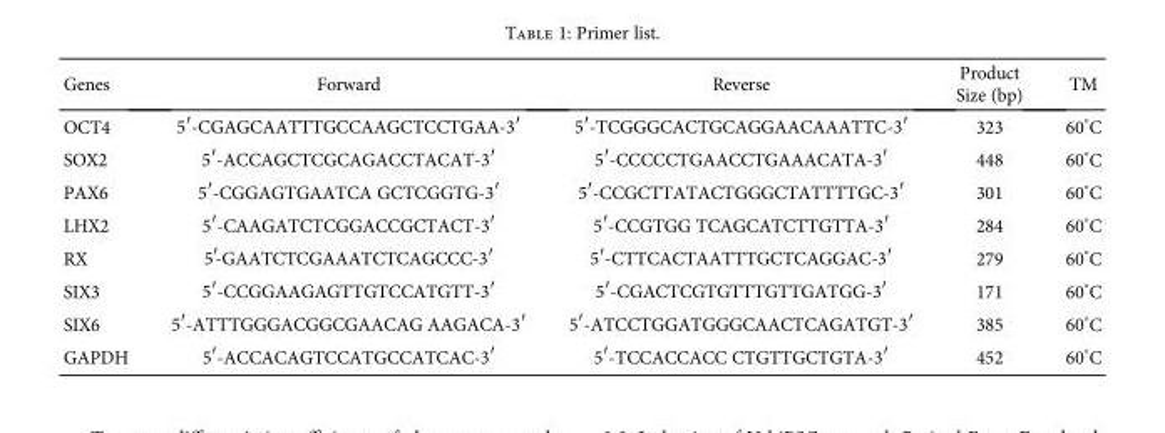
<table><thead><tr><td rowspan="2">Genes</td><td rowspan="2">Forward</td><td rowspan="2">Reverse</td><td rowspan="2">Product Size (bp)</td><td rowspan="2">TM</td></tr><tr></tr></thead><tbody><tr><td>OCT4</td><td>5′-CGAGCAATTTGCCAAGCTCCTGAA-3′</td><td>5′-TCGGGCACTGCAGGAACAAATTC-3′</td><td>323</td><td>60°C</td></tr><tr><td>SOX2</td><td>5′-ACCAGCTCGCAGACCTACAT-3′</td><td>5′-CCCCCTGAACCTGAAACATA-3′</td><td>448</td><td>60°C</td></tr><tr><td>PAX6</td><td>5′-CGGAGTGAATCA GCTCGGTG-3′</td><td>5′-CCGCTTATACTGGGCTATTTTGC-3′</td><td>301</td><td>60°C</td></tr><tr><td>LHX2</td><td>5′-CAAGATCTCGGACCGCTACT-3′</td><td>5′-CCGTGG TCAGCATCTTGTTA-3′</td><td>284</td><td>60°C</td></tr><tr><td>RX</td><td>5′-GAATCTCGAAATCTCAGCCC-3′</td><td>5′-CTTCACTAATTTGCTCAGGAC-3′</td><td>279</td><td>60°C</td></tr><tr><td>SIX3</td><td>5′-CCGGAAGAGTTGTCCATGTT-3′</td><td>5′-CGACTCGTGTTTGTTGATGG-3′</td><td>171</td><td>60°C</td></tr><tr><td>SIX6</td><td>5′-ATTTGGGACGGCGAACAG AAGACA-3′</td><td>5′-ATCCTGGATGGGCAACTCAGATGT-3′</td><td>385</td><td>60°C</td></tr><tr><td>GAPDH</td><td>5′-ACCACAGTCCATGCCATCAC-3′</td><td>5′-TCCACCACC CTGTTGCTGTA-3′</td><td>452</td><td>60°C</td></tr></tbody></table>